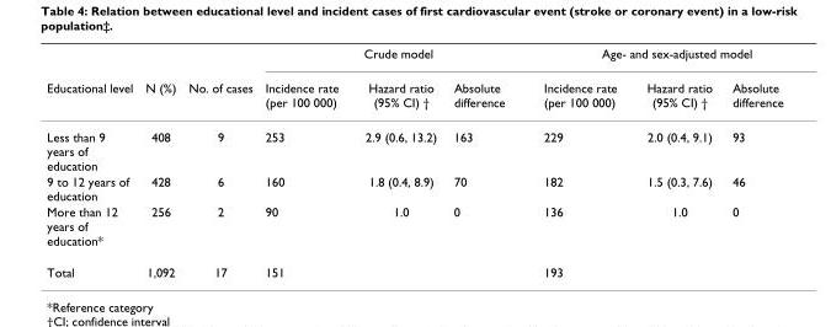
<table><thead><tr><td rowspan="2">Educational level</td><td rowspan="2">N (%)</td><td rowspan="2">No. of cases</td><td colspan="3">Crude model</td><td colspan="3">Age- and sex-adjusted model</td></tr><tr><td>Incidence rate (per 100 000)</td><td>Hazard ratio (95% CI) †</td><td>Absolute difference</td><td>Incidence rate (per 100 000)</td><td>Hazard ratio (95% CI) †</td><td>Absolute difference</td></tr></thead><tbody><tr><td>Less than 9 years of education</td><td>408</td><td>9</td><td>253</td><td>2.9 (0.6, 13.2)</td><td>163</td><td>229</td><td>2.0 (0.4, 9.1)</td><td>93</td></tr><tr><td>9 to 12 years of education</td><td>428</td><td>6</td><td>160</td><td>1.8 (0.4, 8.9)</td><td>70</td><td>182</td><td>1.5 (0.3, 7.6)</td><td>46</td></tr><tr><td>More than 12 years of education*</td><td>256</td><td>2</td><td>90</td><td>1.0</td><td>0</td><td>136</td><td>1.0</td><td>0</td></tr><tr><td>Total</td><td>1,092</td><td>17</td><td>151</td><td></td><td></td><td>193</td><td></td><td></td></tr></tbody></table>